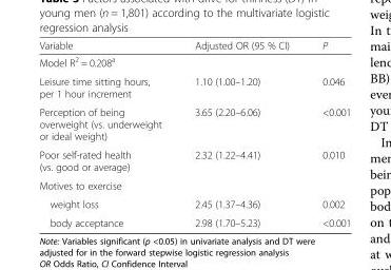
<table><thead><tr><td>Variable</td><td>Adjusted OR (95 % CI)</td><td>P</td></tr></thead><tbody><tr><td colspan="3">Model R<sup>2</sup> = 0.208<sup>a</sup></td></tr><tr><td>Leisure time sitting hours, per 1 hour increment</td><td>1.10 (1.00–1.20)</td><td>0.046</td></tr><tr><td>Perception of being overweight (vs. underweight or ideal weight)</td><td>3.65 (2.20–6.06)</td><td>&lt;0.001</td></tr><tr><td>Poor self-rated health (vs. good or average)</td><td>2.32 (1.22–4.41)</td><td>0.010</td></tr><tr><td colspan="3">Motives to exercise</td></tr><tr><td>weight loss</td><td>2.45 (1.37–4.36)</td><td>0.002</td></tr><tr><td>body acceptance</td><td>2.98 (1.70–5.23)</td><td>&lt;0.001</td></tr></tbody></table>